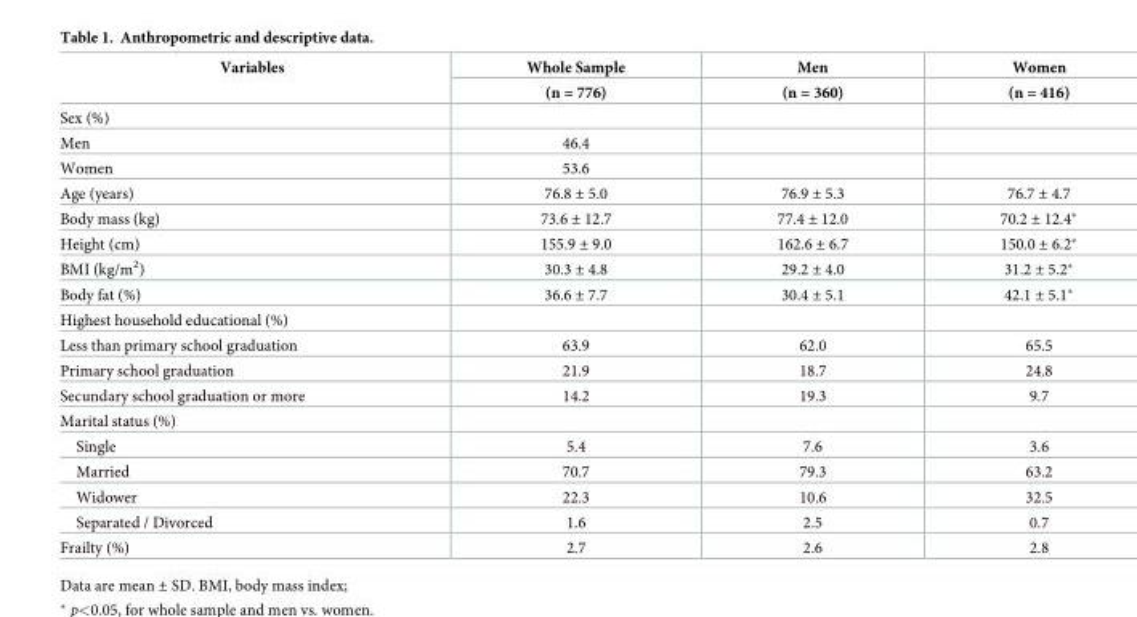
<table><thead><tr><td rowspan="2">Variables</td><td rowspan="2">Whole Sample (n = 776)</td><td rowspan="2">Men (n = 360)</td><td rowspan="2">Women (n = 416)</td></tr><tr></tr></thead><tbody><tr><td colspan="4">Sex (%)</td></tr><tr><td>Men</td><td>46.4</td><td></td><td></td></tr><tr><td>Women</td><td>53.6</td><td></td><td></td></tr><tr><td>Age (years)</td><td>76.8 ± 5.0</td><td>76.9 ± 5.3</td><td>76.7 ± 4.7</td></tr><tr><td>Body mass (kg)</td><td>73.6 ± 12.7</td><td>77.4 ± 12.0</td><td>70.2 ± 12.4*</td></tr><tr><td>Height (cm)</td><td>155.9 ± 9.0</td><td>162.6 ± 6.7</td><td>150.0 ± 6.2*</td></tr><tr><td>BMI (kg/m<sup>2</sup>)</td><td>30.3 ± 4.8</td><td>29.2 ± 4.0</td><td>31.2 ± 5.2*</td></tr><tr><td>Body fat (%)</td><td>36.6 ± 7.7</td><td>30.4 ± 5.1</td><td>42.1 ± 5.1*</td></tr><tr><td colspan="4">Highest household educational (%)</td></tr><tr><td>Less than primary school graduation</td><td>63.9</td><td>62.0</td><td>65.5</td></tr><tr><td>Primary school graduation</td><td>21.9</td><td>18.7</td><td>24.8</td></tr><tr><td>Secundary school graduation or more</td><td>14.2</td><td>19.3</td><td>9.7</td></tr><tr><td colspan="4">Marital status (%)</td></tr><tr><td>Single</td><td>5.4</td><td>7.6</td><td>3.6</td></tr><tr><td>Married</td><td>70.7</td><td>79.3</td><td>63.2</td></tr><tr><td>Widower</td><td>22.3</td><td>10.6</td><td>32.5</td></tr><tr><td>Separated / Divorced</td><td>1.6</td><td>2.5</td><td>0.7</td></tr><tr><td>Frailty (%)</td><td>2.7</td><td>2.6</td><td>2.8</td></tr></tbody></table>